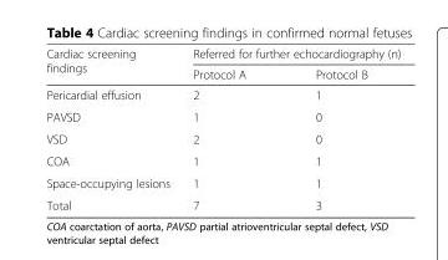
<table><thead><tr><td rowspan="2">Cardiac screening findings</td><td colspan="2">Referred for further echocardiography (n)</td></tr><tr><td>Protocol A</td><td>Protocol B</td></tr></thead><tbody><tr><td>Pericardial effusion</td><td>2</td><td>1</td></tr><tr><td>PAVSD</td><td>1</td><td>0</td></tr><tr><td>VSD</td><td>2</td><td>0</td></tr><tr><td>COA</td><td>1</td><td>1</td></tr><tr><td>Space-occupying lesions</td><td>1</td><td>1</td></tr><tr><td>Total</td><td>7</td><td>3</td></tr></tbody></table>